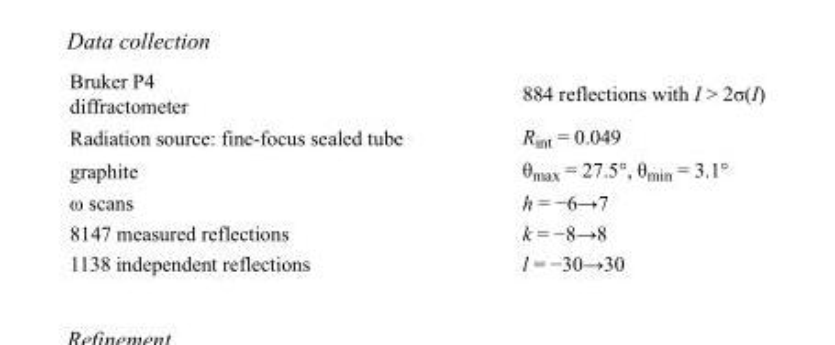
<table><tbody><tr><td>Bruker P4 diffractometer</td><td>884 reflections with I &gt; 2σ(I)</td></tr><tr><td>Radiation source: fine-focus sealed tube</td><td>R<sub>int</sub> = 0.049</td></tr><tr><td>graphite</td><td>θ<sub>max</sub> = 27.5°, θ<sub>min</sub> = 3.1°</td></tr><tr><td>ω scans</td><td>h = −6→7</td></tr><tr><td>8147 measured reflections</td><td>k = −8→8</td></tr><tr><td>1138 independent reflections</td><td>l = −30→30</td></tr></tbody></table>